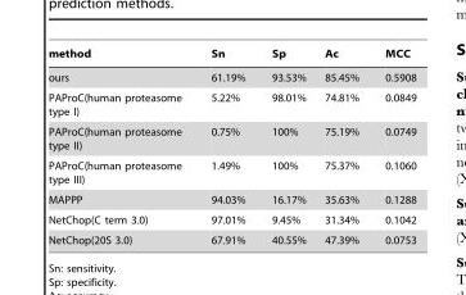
<table><thead><tr><td>method</td><td>Sn</td><td>Sp</td><td>Ac</td><td>MCC</td></tr></thead><tbody><tr><td>ours</td><td>61.19%</td><td>93.53%</td><td>85.45%</td><td>0.5908</td></tr><tr><td>PAProC(human proteasome type I)</td><td>5.22%</td><td>98.01%</td><td>74.81%</td><td>0.0849</td></tr><tr><td>PAProC(human proteasome type II)</td><td>0.75%</td><td>100%</td><td>75.19%</td><td>0.0749</td></tr><tr><td>PAProC(human proteasome type III)</td><td>1.49%</td><td>100%</td><td>75.37%</td><td>0.1060</td></tr><tr><td>MAPPP</td><td>94.03%</td><td>16.17%</td><td>35.63%</td><td>0.1288</td></tr><tr><td>NetChop(C term 3.0)</td><td>97.01%</td><td>9.45%</td><td>31.34%</td><td>0.1042</td></tr><tr><td>NetChop(20S 3.0)</td><td>67.91%</td><td>40.55%</td><td>47.39%</td><td>0.0753</td></tr></tbody></table>